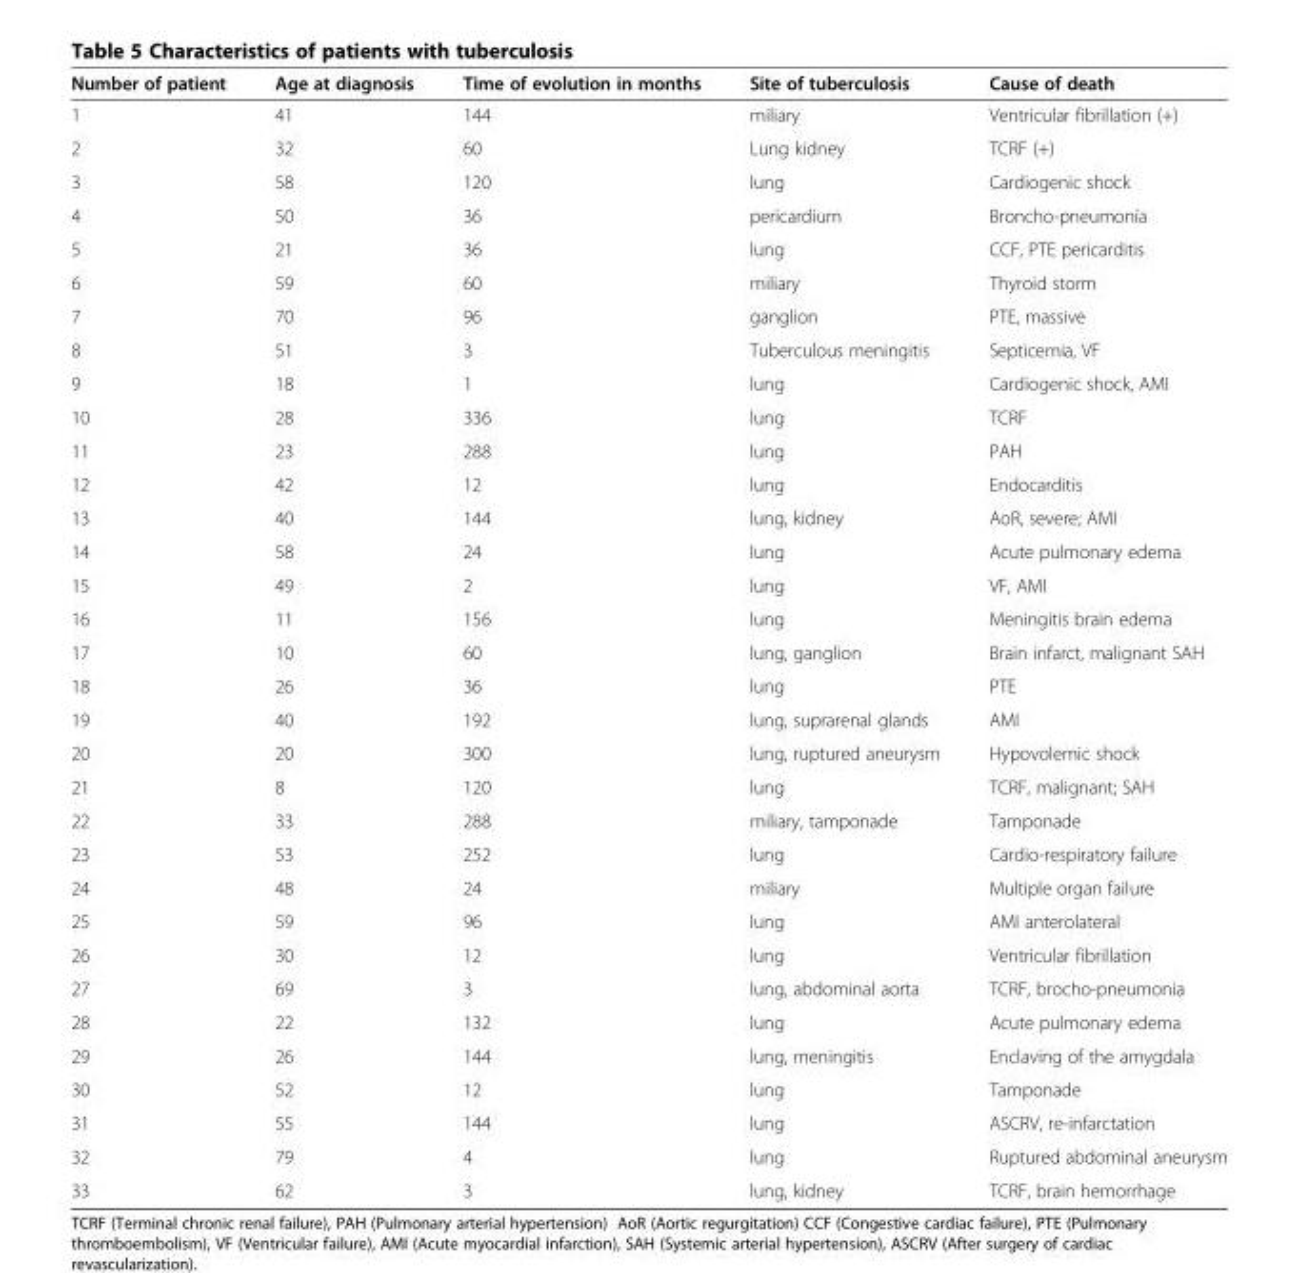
<table><thead><tr><td>Number of patient</td><td>Age at diagnosis</td><td>Time of evolution in months</td><td>Site of tuberculosis</td><td>Cause of death</td></tr></thead><tbody><tr><td>1</td><td>41</td><td>144</td><td>miliary</td><td>Ventricular fibrillation (+)</td></tr><tr><td>2</td><td>32</td><td>60</td><td>Lung kidney</td><td>TCRF (+)</td></tr><tr><td>3</td><td>58</td><td>120</td><td>lung</td><td>Cardiogenic shock</td></tr><tr><td>4</td><td>50</td><td>36</td><td>pericardium</td><td>Broncho-pneumonía</td></tr><tr><td>5</td><td>21</td><td>36</td><td>lung</td><td>CCF, PTE pericarditis</td></tr><tr><td>6</td><td>59</td><td>60</td><td>miliary</td><td>Thyroid storm</td></tr><tr><td>7</td><td>70</td><td>96</td><td>ganglion</td><td>PTE, massive</td></tr><tr><td>8</td><td>51</td><td>3</td><td>Tuberculous meningitis</td><td>Septicemia, VF</td></tr><tr><td>9</td><td>18</td><td>1</td><td>lung</td><td>Cardiogenic shock, AMI</td></tr><tr><td>10</td><td>28</td><td>336</td><td>lung</td><td>TCRF</td></tr><tr><td>11</td><td>23</td><td>288</td><td>lung</td><td>PAH</td></tr><tr><td>12</td><td>42</td><td>12</td><td>lung</td><td>Endocarditis</td></tr><tr><td>13</td><td>40</td><td>144</td><td>lung, kidney</td><td>AoR, severe; AMI</td></tr><tr><td>14</td><td>58</td><td>24</td><td>lung</td><td>Acute pulmonary edema</td></tr><tr><td>15</td><td>49</td><td>2</td><td>lung</td><td>VF, AMI</td></tr><tr><td>16</td><td>11</td><td>156</td><td>lung</td><td>Meningitis brain edema</td></tr><tr><td>17</td><td>10</td><td>60</td><td>lung, ganglion</td><td>Brain infarct, malignant SAH</td></tr><tr><td>18</td><td>26</td><td>36</td><td>lung</td><td>PTE</td></tr><tr><td>19</td><td>40</td><td>192</td><td>lung, suprarenal glands</td><td>AMI</td></tr><tr><td>20</td><td>20</td><td>300</td><td>lung, ruptured aneurysm</td><td>Hypovolemic shock</td></tr><tr><td>21</td><td>8</td><td>120</td><td>lung</td><td>TCRF, malignant; SAH</td></tr><tr><td>22</td><td>33</td><td>288</td><td>miliary, tamponade</td><td>Tamponade</td></tr><tr><td>23</td><td>53</td><td>252</td><td>lung</td><td>Cardio-respiratory failure</td></tr><tr><td>24</td><td>48</td><td>24</td><td>miliary</td><td>Multiple organ failure</td></tr><tr><td>25</td><td>59</td><td>96</td><td>lung</td><td>AMI anterolateral</td></tr><tr><td>26</td><td>30</td><td>12</td><td>lung</td><td>Ventricular fibrillation</td></tr><tr><td>27</td><td>69</td><td>3</td><td>lung, abdominal aorta</td><td>TCRF, brocho-pneumonia</td></tr><tr><td>28</td><td>22</td><td>132</td><td>lung</td><td>Acute pulmonary edema</td></tr><tr><td>29</td><td>26</td><td>144</td><td>lung, meningitis</td><td>Enclaving of the amygdala</td></tr><tr><td>30</td><td>52</td><td>12</td><td>lung</td><td>Tamponade</td></tr><tr><td>31</td><td>55</td><td>144</td><td>lung</td><td>ASCRV, re-infarctation</td></tr><tr><td>32</td><td>79</td><td>4</td><td>lung</td><td>Ruptured abdominal aneurysm</td></tr><tr><td>33</td><td>62</td><td>3</td><td>lung, kidney</td><td>TCRF, brain hemorrhage</td></tr></tbody></table>